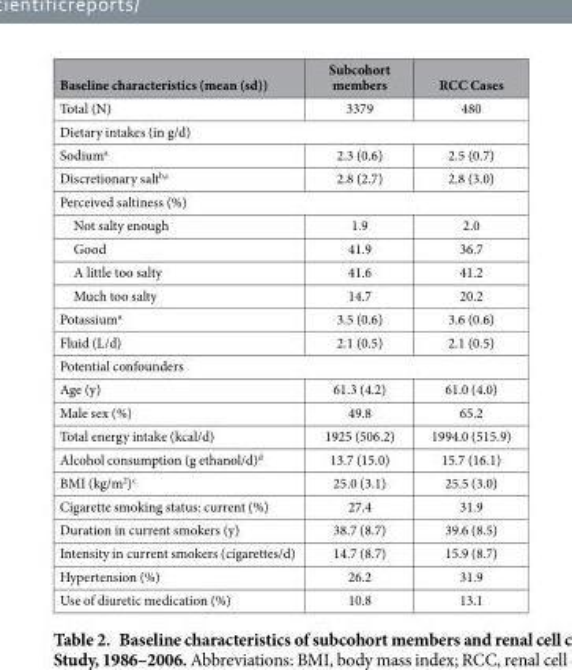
<table><thead><tr><td>Baseline characteristics (mean (sd))</td><td>Subcohort members</td><td>RCC Cases</td></tr></thead><tbody><tr><td>Total (N)</td><td>3379</td><td>480</td></tr><tr><td colspan="3">Dietary intakes (in g/d)</td></tr><tr><td>Sodium<sup>a</sup></td><td>2.3 (0.6)</td><td>2.5 (0.7)</td></tr><tr><td>Discretionary salt<sup>b</sup>,<sup>c</sup></td><td>2.8 (2.7)</td><td>2.8 (3.0)</td></tr><tr><td colspan="3">Perceived saltiness (%)</td></tr><tr><td>Not salty enough</td><td>1.9</td><td>2.0</td></tr><tr><td>Good</td><td>41.9</td><td>36.7</td></tr><tr><td>A little too salty</td><td>41.6</td><td>41.2</td></tr><tr><td>Much too salty</td><td>14.7</td><td>20.2</td></tr><tr><td>Potassium<sup>a</sup></td><td>3.5 (0.6)</td><td>3.6 (0.6)</td></tr><tr><td>Fluid (L/d)</td><td>2.1 (0.5)</td><td>2.1 (0.5)</td></tr><tr><td colspan="3">Potential confounders</td></tr><tr><td>Age (y)</td><td>61.3 (4.2)</td><td>61.0 (4.0)</td></tr><tr><td>Male sex (%)</td><td>49.8</td><td>65.2</td></tr><tr><td>Total energy intake (kcal/d)</td><td>1925 (506.2)</td><td>1994.0 (515.9)</td></tr><tr><td>Alcohol consumption (g ethanol/d)<sup>d</sup></td><td>13.7 (15.0)</td><td>15.7 (16.1)</td></tr><tr><td>BMI (kg/m<sup>2</sup>)<sup>c</sup></td><td>25.0 (3.1)</td><td>25.5 (3.0)</td></tr><tr><td>Cigarette smoking status: current (%)</td><td>27.4</td><td>31.9</td></tr><tr><td>Duration in current smokers (y)</td><td>38.7 (8.7)</td><td>39.6 (8.5)</td></tr><tr><td>Intensity in current smokers (cigarettes/d)</td><td>14.7 (8.7)</td><td>15.9 (8.7)</td></tr><tr><td>Hypertension (%)</td><td>26.2</td><td>31.9</td></tr><tr><td>Use of diuretic medication (%)</td><td>10.8</td><td>13.1</td></tr></tbody></table>